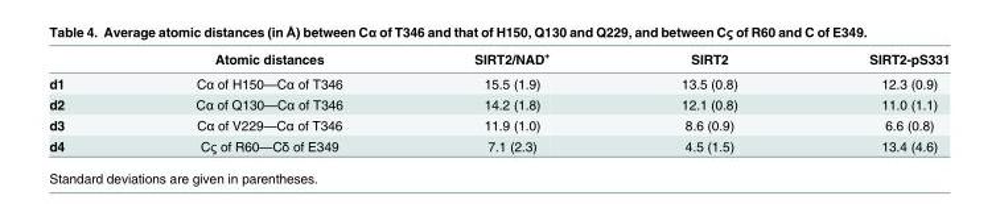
<table><thead><tr><td></td><td>Atomic distances</td><td>SIRT2/NAD<sup>+</sup></td><td>SIRT2</td><td>SIRT2-pS331</td></tr></thead><tbody><tr><td>d1</td><td>Cα of H150—Cα of T346</td><td>15.5 (1.9)</td><td>13.5 (0.8)</td><td>12.3 (0.9)</td></tr><tr><td>d2</td><td>Cα of Q130—Cα of T346</td><td>14.2 (1.8)</td><td>12.1 (0.8)</td><td>11.0 (1.1)</td></tr><tr><td>d3</td><td>Cα of V229—Cα of T346</td><td>11.9 (1.0)</td><td>8.6 (0.9)</td><td>6.6 (0.8)</td></tr><tr><td>d4</td><td>Cς of R60—Cδ of E349</td><td>7.1 (2.3)</td><td>4.5 (1.5)</td><td>13.4 (4.6)</td></tr></tbody></table>